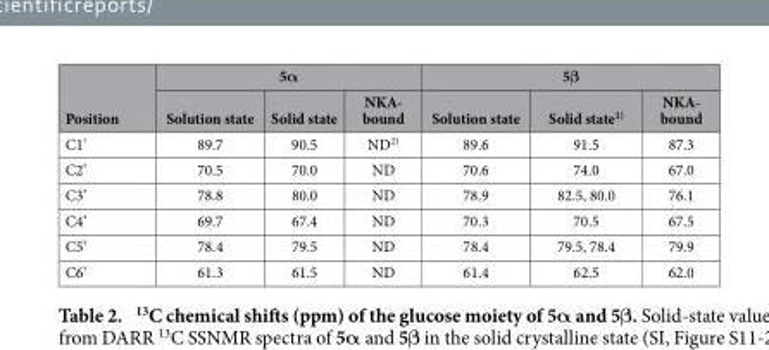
<table><thead><tr><td rowspan="2">Position</td><td colspan="3">5α</td><td colspan="3">5β</td></tr><tr><td>Solution state</td><td>Solid state</td><td>NKA- bound</td><td>Solution state</td><td>Solid state<sup>1)</sup></td><td>NKA- bound</td></tr></thead><tbody><tr><td>C1’</td><td>89.7</td><td>90.5</td><td>ND<sup>2)</sup></td><td>89.6</td><td>91.5</td><td>87.3</td></tr><tr><td>C2’</td><td>70.5</td><td>70.0</td><td>ND</td><td>70.6</td><td>74.0</td><td>67.0</td></tr><tr><td>C3’</td><td>78.8</td><td>80.0</td><td>ND</td><td>78.9</td><td>82.5, 80.0</td><td>76.1</td></tr><tr><td>C4’</td><td>69.7</td><td>67.4</td><td>ND</td><td>70.3</td><td>70.5</td><td>67.5</td></tr><tr><td>C5’</td><td>78.4</td><td>79.5</td><td>ND</td><td>78.4</td><td>79.5, 78.4</td><td>79.9</td></tr><tr><td>C6’</td><td>61.3</td><td>61.5</td><td>ND</td><td>61.4</td><td>62.5</td><td>62.0</td></tr></tbody></table>